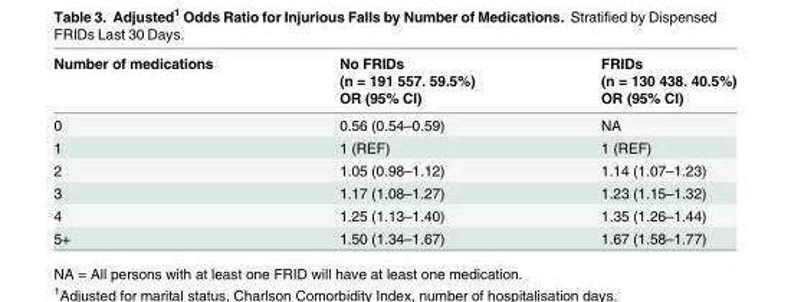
<table><thead><tr><td rowspan="3">Number of medications</td><td rowspan="3">No FRIDs (n = 191 557. 59.5%) OR (95% CI)</td><td rowspan="3">FRIDs (n = 130 438. 40.5%) OR (95% CI)</td></tr><tr></tr><tr></tr></thead><tbody><tr><td>0</td><td>0.56 (0.54–0.59)</td><td>NA</td></tr><tr><td>1</td><td>1 (REF)</td><td>1 (REF)</td></tr><tr><td>2</td><td>1.05 (0.98–1.12)</td><td>1.14 (1.07–1.23)</td></tr><tr><td>3</td><td>1.17 (1.08–1.27)</td><td>1.23 (1.15–1.32)</td></tr><tr><td>4</td><td>1.25 (1.13–1.40)</td><td>1.35 (1.26–1.44)</td></tr><tr><td>5+</td><td>1.50 (1.34–1.67)</td><td>1.67 (1.58–1.77)</td></tr></tbody></table>